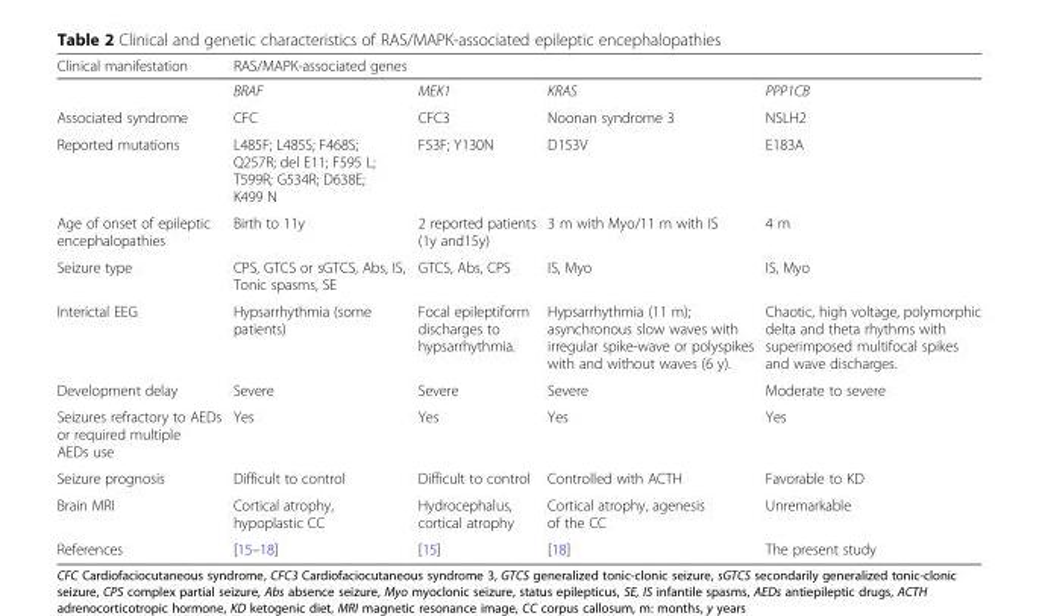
<table><thead><tr><td rowspan="2">Clinical manifestation</td><td colspan="4">RAS/MAPK-associated genes</td></tr><tr><td>BRAF</td><td>MEK1</td><td>KRAS</td><td>PPP1CB</td></tr></thead><tbody><tr><td>Associated syndrome</td><td>CFC</td><td>CFC3</td><td>Noonan syndrome 3</td><td>NSLH2</td></tr><tr><td>Reported mutations</td><td>L485F; L485S; F468S; Q257R; del E11; F595 L; T599R; G534R; D638E; K499 N</td><td>F53F; Y130N</td><td>D153V</td><td>E183A</td></tr><tr><td>Age of onset of epileptic encephalopathies</td><td>Birth to 11y</td><td>2 reported patients (1y and15y)</td><td>3 m with Myo/11 m with IS</td><td>4 m</td></tr><tr><td>Seizure type</td><td>CPS, GTCS or sGTCS, Abs, IS, Tonic spasms, SE</td><td>GTCS, Abs, CPS</td><td>IS, Myo</td><td>IS, Myo</td></tr><tr><td>Interictal EEG</td><td>Hypsarrhythmia (some patients)</td><td>Focal epileptiform discharges to hypsarrhythmia.</td><td>Hypsarrhythmia (11 m); asynchronous slow waves with irregular spike-wave or polyspikes with and without waves (6 y).</td><td>Chaotic, high voltage, polymorphic delta and theta rhythms with superimposed multifocal spikes and wave discharges.</td></tr><tr><td>Development delay</td><td>Severe</td><td>Severe</td><td>Severe</td><td>Moderate to severe</td></tr><tr><td>Seizures refractory to AEDs or required multiple AEDs use</td><td>Yes</td><td>Yes</td><td>Yes</td><td>Yes</td></tr><tr><td>Seizure prognosis</td><td>Difficult to control</td><td>Difficult to control</td><td>Controlled with ACTH</td><td>Favorable to KD</td></tr><tr><td>Brain MRI</td><td>Cortical atrophy, hypoplastic CC</td><td>Hydrocephalus, cortical atrophy</td><td>Cortical atrophy, agenesis of the CC</td><td>Unremarkable</td></tr><tr><td>References</td><td>[15–18]</td><td>[15]</td><td>[18]</td><td>The present study</td></tr></tbody></table>